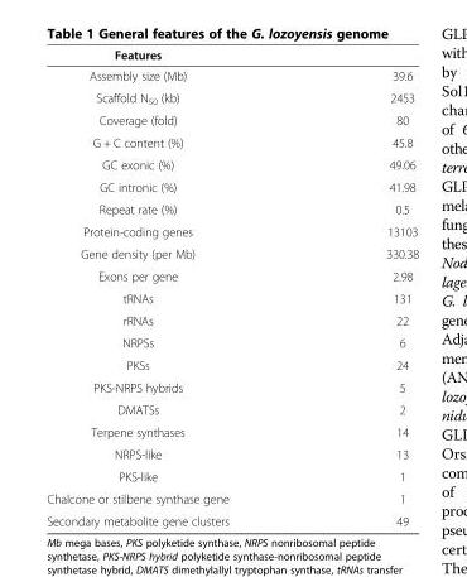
<table><thead><tr><td>Features</td><td></td></tr></thead><tbody><tr><td>Assembly size (Mb)</td><td>39.6</td></tr><tr><td>Scaffold N<sub>50</sub> (kb)</td><td>2453</td></tr><tr><td>Coverage (fold)</td><td>80</td></tr><tr><td>G + C content (%)</td><td>45.8</td></tr><tr><td>GC exonic (%)</td><td>49.06</td></tr><tr><td>GC intronic (%)</td><td>41.98</td></tr><tr><td>Repeat rate (%)</td><td>0.5</td></tr><tr><td>Protein-coding genes</td><td>13103</td></tr><tr><td>Gene density (per Mb)</td><td>330.38</td></tr><tr><td>Exons per gene</td><td>2.98</td></tr><tr><td>tRNAs</td><td>131</td></tr><tr><td>rRNAs</td><td>22</td></tr><tr><td>NRPSs</td><td>6</td></tr><tr><td>PKSs</td><td>24</td></tr><tr><td>PKS-NRPS hybrids</td><td>5</td></tr><tr><td>DMATSs</td><td>2</td></tr><tr><td>Terpene synthases</td><td>14</td></tr><tr><td>NRPS-like</td><td>13</td></tr><tr><td>PKS-like</td><td>1</td></tr><tr><td>Chalcone or stilbene synthase gene</td><td>1</td></tr><tr><td>Secondary metabolite gene clusters</td><td>49</td></tr></tbody></table>